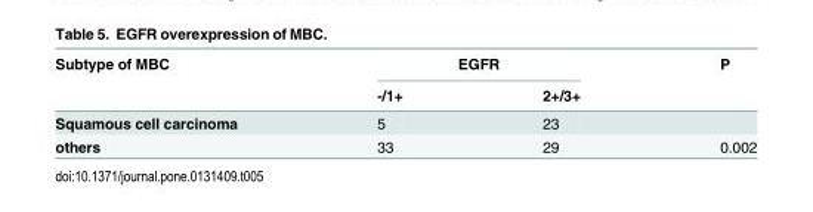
<table><thead><tr><td rowspan="2">Subtype of MBC</td><td colspan="2">EGFR</td><td rowspan="2">P</td></tr><tr><td>-/1+</td><td>2+/3+</td></tr></thead><tbody><tr><td>Squamous cell carcinoma</td><td>5</td><td>23</td><td></td></tr><tr><td>others</td><td>33</td><td>29</td><td>0.002</td></tr></tbody></table>